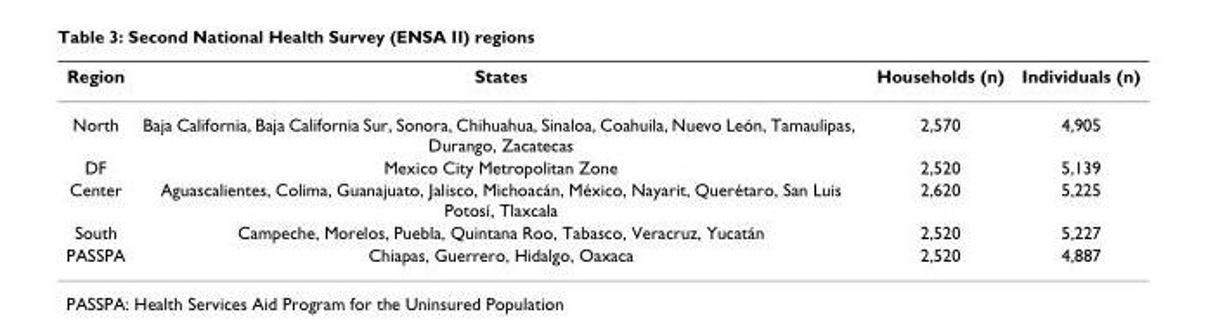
<table><thead><tr><td>Region</td><td>States</td><td>Households (n)</td><td>Individuals (n)</td></tr></thead><tbody><tr><td>North</td><td>Baja California, Baja California Sur, Sonora, Chihuahua, Sinaloa, Coahuila, Nuevo León, Tamaulipas, Durango, Zacatecas</td><td>2,570</td><td>4,905</td></tr><tr><td>DF</td><td>Mexico City Metropolitan Zone</td><td>2,520</td><td>5,139</td></tr><tr><td>Center</td><td>Aguascalientes, Colima, Guanajuato, Jalisco, Michoacán, México, Nayarit, Querétaro, San Luis Potosí, Tlaxcala</td><td>2,620</td><td>5,225</td></tr><tr><td>South</td><td>Campeche, Morelos, Puebla, Quintana Roo, Tabasco, Veracruz, Yucatán</td><td>2,520</td><td>5,227</td></tr><tr><td>PASSPA</td><td>Chiapas, Guerrero, Hidalgo, Oaxaca</td><td>2,520</td><td>4,887</td></tr></tbody></table>